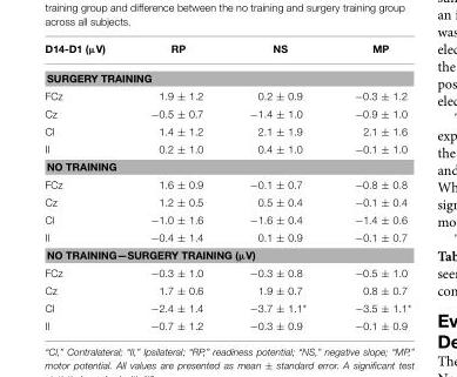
<table><thead><tr><td>D14-D1 (µV)</td><td>RP</td><td>NS</td><td>MP</td></tr></thead><tbody><tr><td colspan="4">SURGERY TRAINING</td></tr><tr><td>FCz</td><td>1.9 ± 1.2</td><td>0.2 ± 0.9</td><td>−0.3 ± 1.2</td></tr><tr><td>Cz</td><td>−0.5 ± 0.7</td><td>−1.4 ± 1.0</td><td>−0.9 ± 1.0</td></tr><tr><td>Cl</td><td>1.4 ± 1.2</td><td>2.1 ± 1.9</td><td>2.1 ± 1.6</td></tr><tr><td>Il</td><td>0.2 ± 1.0</td><td>0.4 ± 1.0</td><td>−0.1 ± 1.0</td></tr><tr><td colspan="4">NO TRAINING</td></tr><tr><td>FCz</td><td>1.6 ± 0.9</td><td>−0.1 ± 0.7</td><td>−0.8 ± 0.8</td></tr><tr><td>Cz</td><td>1.2 ± 0.5</td><td>0.5 ± 0.4</td><td>−0.1 ± 0.4</td></tr><tr><td>Cl</td><td>−1.0 ± 1.6</td><td>−1.6 ± 0.4</td><td>−1.4 ± 0.6</td></tr><tr><td>Il</td><td>−0.4 ± 1.4</td><td>0.1 ± 0.9</td><td>−0.1 ± 0.7</td></tr><tr><td colspan="4">NO TRAINING—SURGERY TRAINING (µV)</td></tr><tr><td>FCz</td><td>−0.3 ± 1.0</td><td>−0.3 ± 0.8</td><td>−0.5 ± 1.0</td></tr><tr><td>Cz</td><td>1.7 ± 0.6</td><td>1.9 ± 0.7</td><td>0.8 ± 0.7</td></tr><tr><td>Cl</td><td>−2.4 ± 1.4</td><td>−3.7 ± 1.1*</td><td>−3.5 ± 1.1*</td></tr><tr><td>Il</td><td>−0.7 ± 1.2</td><td>−0.3 ± 0.9</td><td>−0.1 ± 0.9</td></tr></tbody></table>